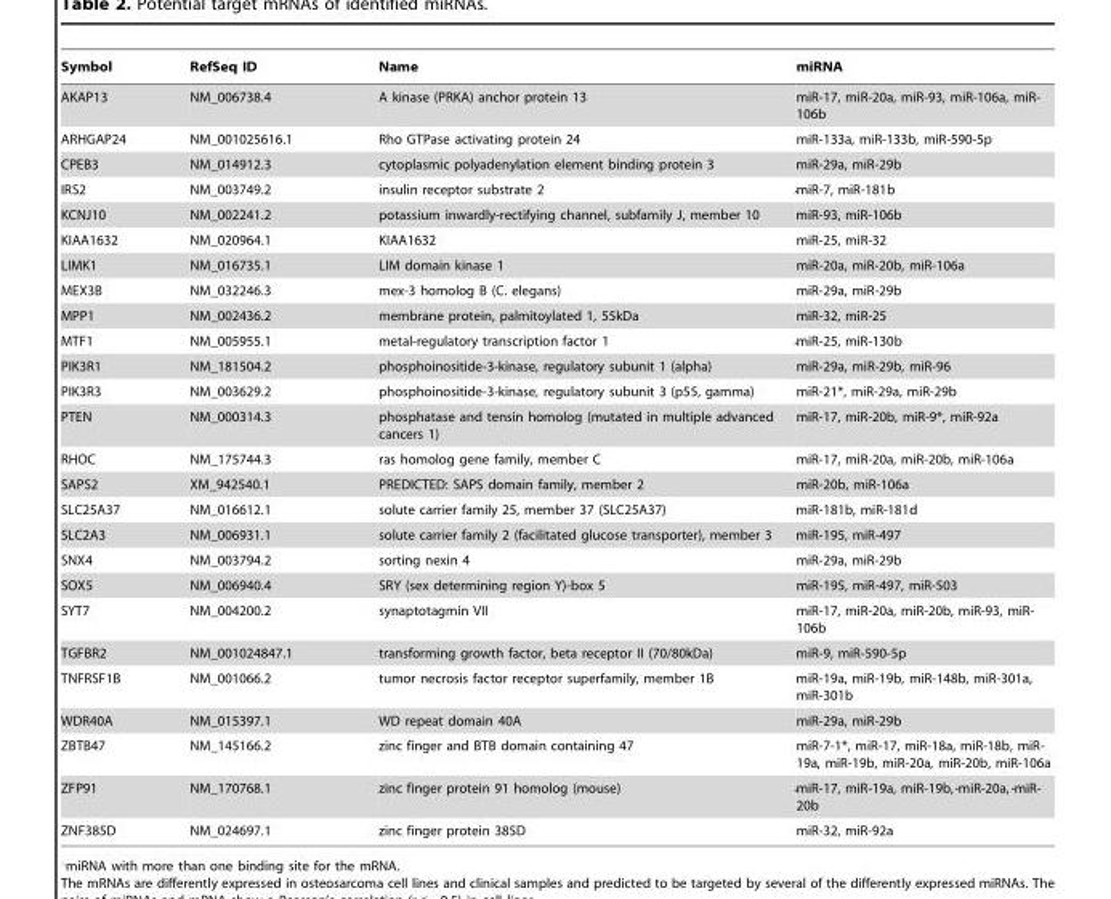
<table><thead><tr><td>Symbol</td><td>RefSeq ID</td><td>Name</td><td>miRNA</td></tr></thead><tbody><tr><td>AKAP13</td><td>NM_006738.4</td><td>A kinase (PRKA) anchor protein 13</td><td>miR-17, miR-20a, miR-93, miR-106a, miR- 106b</td></tr><tr><td>ARHGAP24</td><td>NM_001025616.1</td><td>Rho GTPase activating protein 24</td><td>miR-133a, miR-133b, miR-590-5p</td></tr><tr><td>CPEB3</td><td>NM_014912.3</td><td>cytoplasmic polyadenylation element binding protein 3</td><td>miR-29a, miR-29b</td></tr><tr><td>IRS2</td><td>NM_003749.2</td><td>insulin receptor substrate 2</td><td>ˆmiR-7, miR-181b</td></tr><tr><td>KCNJ10</td><td>NM_002241.2</td><td>potassium inwardly-rectifying channel, subfamily J, member 10</td><td>miR-93, miR-106b</td></tr><tr><td>KIAA1632</td><td>NM_020964.1</td><td>KIAA1632</td><td>miR-25, miR-32</td></tr><tr><td>LIMK1</td><td>NM_016735.1</td><td>LIM domain kinase 1</td><td>miR-20a, miR-20b, miR-106a</td></tr><tr><td>MEX3B</td><td>NM_032246.3</td><td>mex-3 homolog B (C. elegans)</td><td>miR-29a, miR-29b</td></tr><tr><td>MPP1</td><td>NM_002436.2</td><td>membrane protein, palmitoylated 1, 55kDa</td><td>miR-32, miR-25</td></tr><tr><td>MTF1</td><td>NM_005955.1</td><td>metal-regulatory transcription factor 1</td><td>ˆmiR-25, miR-130b</td></tr><tr><td>PIK3R1</td><td>NM_181504.2</td><td>phosphoinositide-3-kinase, regulatory subunit 1 (alpha)</td><td>miR-29a, miR-29b, miR-96</td></tr><tr><td>PIK3R3</td><td>NM_003629.2</td><td>phosphoinositide-3-kinase, regulatory subunit 3 (p55, gamma)</td><td>miR-21*, miR-29a, miR-29b</td></tr><tr><td>PTEN</td><td>NM_000314.3</td><td>phosphatase and tensin homolog (mutated in multiple advanced cancers 1)</td><td>miR-17, miR-20b, miR-9*, miR-92a</td></tr><tr><td>RHOC</td><td>NM_175744.3</td><td>ras homolog gene family, member C</td><td>miR-17, miR-20a, miR-20b, miR-106a</td></tr><tr><td>SAPS2</td><td>XM_942540.1</td><td>PREDICTED: SAPS domain family, member 2</td><td>miR-20b, miR-106a</td></tr><tr><td>SLC25A37</td><td>NM_016612.1</td><td>solute carrier family 25, member 37 (SLC25A37)</td><td>miR-181b, miR-181d</td></tr><tr><td>SLC2A3</td><td>NM_006931.1</td><td>solute carrier family 2 (facilitated glucose transporter), member 3</td><td>miR-195, miR-497</td></tr><tr><td>SNX4</td><td>NM_003794.2</td><td>sorting nexin 4</td><td>miR-29a, miR-29b</td></tr><tr><td>SOX5</td><td>NM_006940.4</td><td>SRY (sex determining region Y)-box 5</td><td>miR-195, miR-497, miR-503</td></tr><tr><td>SYT7</td><td>NM_004200.2</td><td>synaptotagmin VII</td><td>miR-17, miR-20a, miR-20b, miR-93, miR- 106b</td></tr><tr><td>TGFBR2</td><td>NM_001024847.1</td><td>transforming growth factor, beta receptor II (70/80kDa)</td><td>miR-9, miR-590-5p</td></tr><tr><td>TNFRSF1B</td><td>NM_001066.2</td><td>tumor necrosis factor receptor superfamily, member 1B</td><td>miR-19a, miR-19b, miR-148b, miR-301a, miR-301b</td></tr><tr><td>WDR40A</td><td>NM_015397.1</td><td>WD repeat domain 40A</td><td>miR-29a, miR-29b</td></tr><tr><td>ZBTB47</td><td>NM_145166.2</td><td>zinc finger and BTB domain containing 47</td><td>miR-7-1*, miR-17, miR-18a, miR-18b, miR- 19a, miR-19b, miR-20a, miR-20b, miR-106a</td></tr><tr><td>ZFP91</td><td>NM_170768.1</td><td>zinc finger protein 91 homolog (mouse)</td><td>ˆmiR-17, miR-19a, miR-19b,ˆmiR-20a,ˆmiR- 20b</td></tr><tr><td>ZNF385D</td><td>NM_024697.1</td><td>zinc finger protein 385D</td><td>miR-32, miR-92a</td></tr></tbody></table>